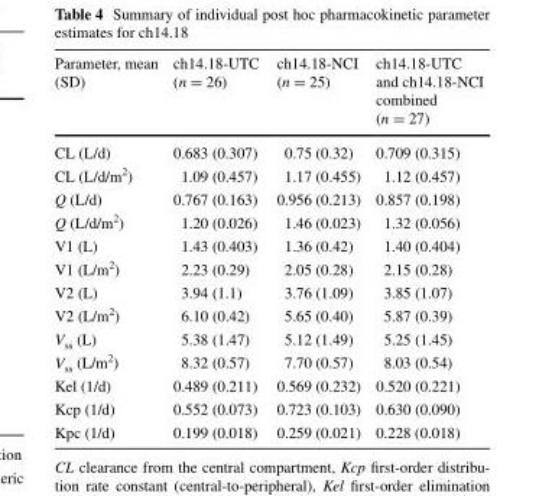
<table><thead><tr><td>Parameter, mean (SD)</td><td>ch14.18-UTC (n = 26)</td><td>ch14.18-NCI (n = 25)</td><td>ch14.18-UTC and ch14.18-NCI combined (n = 27)</td></tr></thead><tbody><tr><td>CL (L/d)</td><td>0.683 (0.307)</td><td>0.75 (0.32)</td><td>0.709 (0.315)</td></tr><tr><td>CL (L/d/m<sup>2</sup>)</td><td>1.09 (0.457)</td><td>1.17 (0.455)</td><td>1.12 (0.457)</td></tr><tr><td>Q (L/d)</td><td>0.767 (0.163)</td><td>0.956 (0.213)</td><td>0.857 (0.198)</td></tr><tr><td>Q (L/d/m<sup>2</sup>)</td><td>1.20 (0.026)</td><td>1.46 (0.023)</td><td>1.32 (0.056)</td></tr><tr><td>V1 (L)</td><td>1.43 (0.403)</td><td>1.36 (0.42)</td><td>1.40 (0.404)</td></tr><tr><td>V1 (L/m<sup>2</sup>)</td><td>2.23 (0.29)</td><td>2.05 (0.28)</td><td>2.15 (0.28)</td></tr><tr><td>V2 (L)</td><td>3.94 (1.1)</td><td>3.76 (1.09)</td><td>3.85 (1.07)</td></tr><tr><td>V2 (L/m<sup>2</sup>)</td><td>6.10 (0.42)</td><td>5.65 (0.40)</td><td>5.87 (0.39)</td></tr><tr><td>V<sub>ss</sub> (L)</td><td>5.38 (1.47)</td><td>5.12 (1.49)</td><td>5.25 (1.45)</td></tr><tr><td>V<sub>ss</sub> (L/m<sup>2</sup>)</td><td>8.32 (0.57)</td><td>7.70 (0.57)</td><td>8.03 (0.54)</td></tr><tr><td>Kel (1/d)</td><td>0.489 (0.211)</td><td>0.569 (0.232)</td><td>0.520 (0.221)</td></tr><tr><td>Kcp (1/d)</td><td>0.552 (0.073)</td><td>0.723 (0.103)</td><td>0.630 (0.090)</td></tr><tr><td>Kpc (1/d)</td><td>0.199 (0.018)</td><td>0.259 (0.021)</td><td>0.228 (0.018)</td></tr></tbody></table>